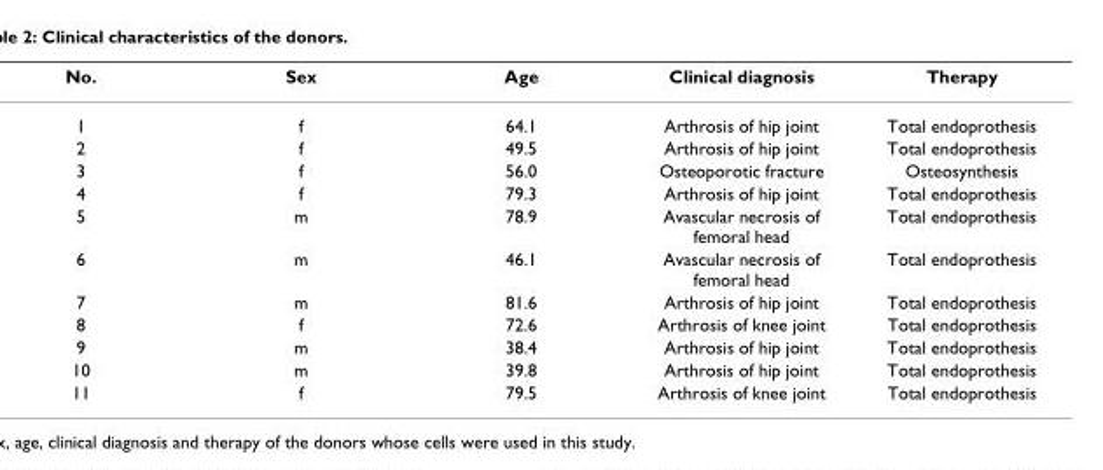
<table><thead><tr><td>No.</td><td>Sex</td><td>Age</td><td>Clinical diagnosis</td><td>Therapy</td></tr></thead><tbody><tr><td>1</td><td>f</td><td>64.1</td><td>Arthrosis of hip joint</td><td>Total endoprothesis</td></tr><tr><td>2</td><td>f</td><td>49.5</td><td>Arthrosis of hip joint</td><td>Total endoprothesis</td></tr><tr><td>3</td><td>f</td><td>56.0</td><td>Osteoporotic fracture</td><td>Osteosynthesis</td></tr><tr><td>4</td><td>f</td><td>79.3</td><td>Arthrosis of hip joint</td><td>Total endoprothesis</td></tr><tr><td>5</td><td>m</td><td>78.9</td><td>Avascular necrosis of femoral head</td><td>Total endoprothesis</td></tr><tr><td>6</td><td>m</td><td>46.1</td><td>Avascular necrosis of femoral head</td><td>Total endoprothesis</td></tr><tr><td>7</td><td>m</td><td>81.6</td><td>Arthrosis of hip joint</td><td>Total endoprothesis</td></tr><tr><td>8</td><td>f</td><td>72.6</td><td>Arthrosis of knee joint</td><td>Total endoprothesis</td></tr><tr><td>9</td><td>m</td><td>38.4</td><td>Arthrosis of hip joint</td><td>Total endoprothesis</td></tr><tr><td>10</td><td>m</td><td>39.8</td><td>Arthrosis of hip joint</td><td>Total endoprothesis</td></tr><tr><td>11</td><td>f</td><td>79.5</td><td>Arthrosis of knee joint</td><td>Total endoprothesis</td></tr></tbody></table>